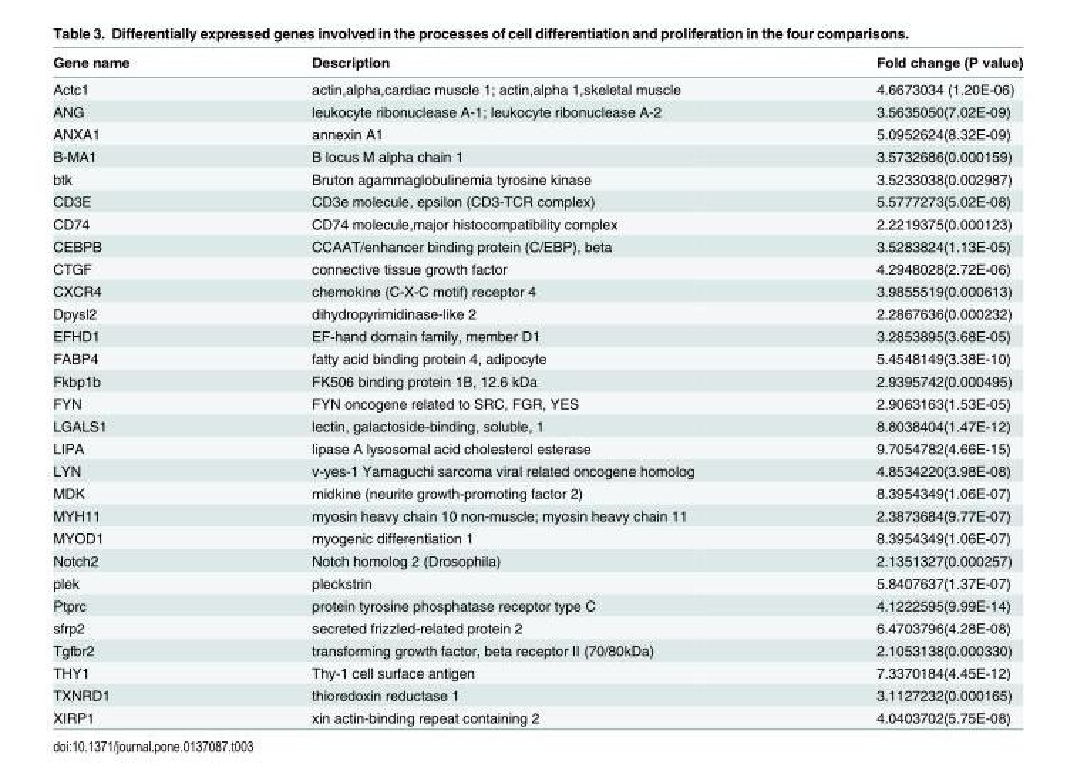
<table><thead><tr><td>Gene name</td><td>Description</td><td>Fold change (P value)</td></tr></thead><tbody><tr><td>Actc1</td><td>actin,alpha,cardiac muscle 1; actin,alpha 1,skeletal muscle</td><td>4.6673034 (1.20E-06)</td></tr><tr><td>ANG</td><td>leukocyte ribonuclease A-1; leukocyte ribonuclease A-2</td><td>3.5635050(7.02E-09)</td></tr><tr><td>ANXA1</td><td>annexin A1</td><td>5.0952624(8.32E-09)</td></tr><tr><td>B-MA1</td><td>B locus M alpha chain 1</td><td>3.5732686(0.000159)</td></tr><tr><td>btk</td><td>Bruton agammaglobulinemia tyrosine kinase</td><td>3.5233038(0.002987)</td></tr><tr><td>CD3E</td><td>CD3e molecule, epsilon (CD3-TCR complex)</td><td>5.5777273(5.02E-08)</td></tr><tr><td>CD74</td><td>CD74 molecule,major histocompatibility complex</td><td>2.2219375(0.000123)</td></tr><tr><td>CEBPB</td><td>CCAAT/enhancer binding protein (C/EBP), beta</td><td>3.5283824(1.13E-05)</td></tr><tr><td>CTGF</td><td>connective tissue growth factor</td><td>4.2948028(2.72E-06)</td></tr><tr><td>CXCR4</td><td>chemokine (C-X-C motif) receptor 4</td><td>3.9855519(0.000613)</td></tr><tr><td>Dpysl2</td><td>dihydropyrimidinase-like 2</td><td>2.2867636(0.000232)</td></tr><tr><td>EFHD1</td><td>EF-hand domain family, member D1</td><td>3.2853895(3.68E-05)</td></tr><tr><td>FABP4</td><td>fatty acid binding protein 4, adipocyte</td><td>5.4548149(3.38E-10)</td></tr><tr><td>Fkbp1b</td><td>FK506 binding protein 1B, 12.6 kDa</td><td>2.9395742(0.000495)</td></tr><tr><td>FYN</td><td>FYN oncogene related to SRC, FGR, YES</td><td>2.9063163(1.53E-05)</td></tr><tr><td>LGALS1</td><td>lectin, galactoside-binding, soluble, 1</td><td>8.8038404(1.47E-12)</td></tr><tr><td>LIPA</td><td>lipase A lysosomal acid cholesterol esterase</td><td>9.7054782(4.66E-15)</td></tr><tr><td>LYN</td><td>v-yes-1 Yamaguchi sarcoma viral related oncogene homolog</td><td>4.8534220(3.98E-08)</td></tr><tr><td>MDK</td><td>midkine (neurite growth-promoting factor 2)</td><td>8.3954349(1.06E-07)</td></tr><tr><td>MYH11</td><td>myosin heavy chain 10 non-muscle; myosin heavy chain 11</td><td>2.3873684(9.77E-07)</td></tr><tr><td>MYOD1</td><td>myogenic differentiation 1</td><td>8.3954349(1.06E-07)</td></tr><tr><td>Notch2</td><td>Notch homolog 2 (Drosophila)</td><td>2.1351327(0.000257)</td></tr><tr><td>plek</td><td>pleckstrin</td><td>5.8407637(1.37E-07)</td></tr><tr><td>Ptprc</td><td>protein tyrosine phosphatase receptor type C</td><td>4.1222595(9.99E-14)</td></tr><tr><td>sfrp2</td><td>secreted frizzled-related protein 2</td><td>6.4703796(4.28E-08)</td></tr><tr><td>Tgfbr2</td><td>transforming growth factor, beta receptor II (70/80kDa)</td><td>2.1053138(0.000330)</td></tr><tr><td>THY1</td><td>Thy-1 cell surface antigen</td><td>7.3370184(4.45E-12)</td></tr><tr><td>TXNRD1</td><td>thioredoxin reductase 1</td><td>3.1127232(0.000165)</td></tr><tr><td>XIRP1</td><td>xin actin-binding repeat containing 2</td><td>4.0403702(5.75E-08)</td></tr></tbody></table>